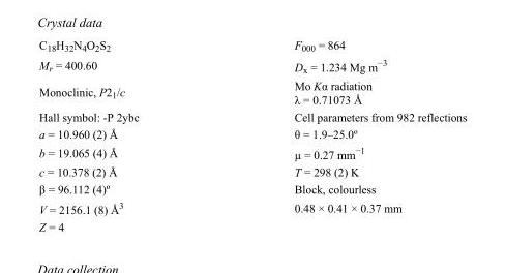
<table><tbody><tr><td>C<sub>18</sub>H<sub>32</sub>N<sub>4</sub>O<sub>2</sub>S<sub>2</sub></td><td>F<sub>000</sub> = 864</td></tr><tr><td>M<sub>r</sub> = 400.60</td><td>D<sub>x</sub> = 1.234 Mg m<sup>−3</sup></td></tr><tr><td>Monoclinic, P2<sub>1</sub>/c</td><td>Mo Kα radiation λ = 0.71073 Å</td></tr><tr><td>Hall symbol: -P 2ybc</td><td>Cell parameters from 982 reflections</td></tr><tr><td>a = 10.960 (2) Å</td><td>θ = 1.9–25.0º</td></tr><tr><td>b = 19.065 (4) Å</td><td>µ = 0.27 mm<sup>−1</sup></td></tr><tr><td>c = 10.378 (2) Å</td><td>T = 298 (2) K</td></tr><tr><td>β = 96.112 (4)º</td><td>Block, colourless</td></tr><tr><td>V = 2156.1 (8) Å<sup>3</sup></td><td>0.48 × 0.41 × 0.37 mm</td></tr><tr><td>Z = 4</td><td></td></tr></tbody></table>